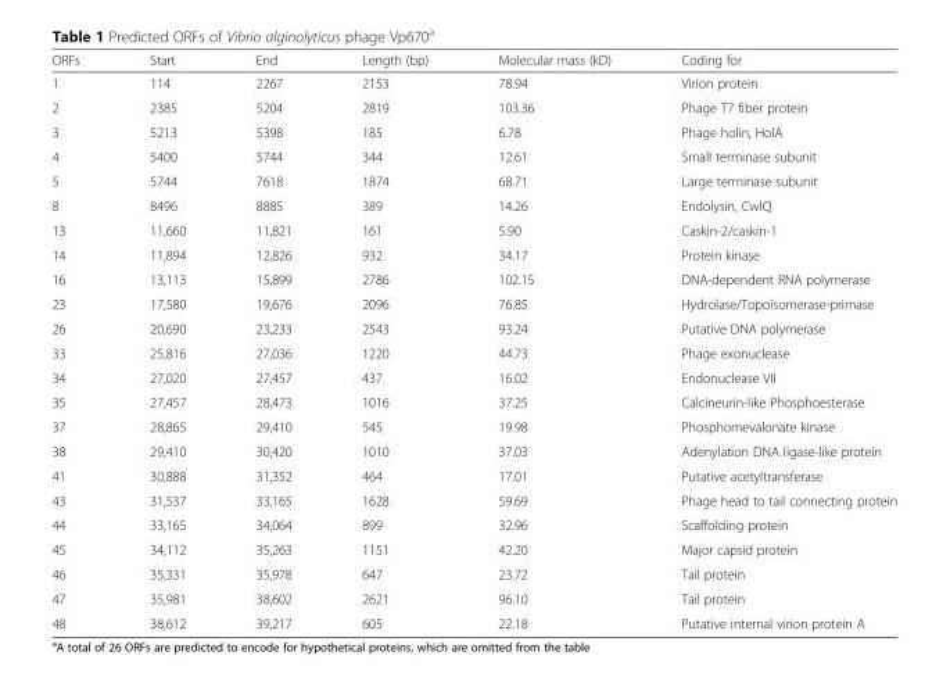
<table><thead><tr><td>ORFs</td><td>Start</td><td>End</td><td>Length (bp)</td><td>Molecular mass (kD)</td><td>Coding for</td></tr></thead><tbody><tr><td>1</td><td>114</td><td>2267</td><td>2153</td><td>78.94</td><td>Virion protein</td></tr><tr><td>2</td><td>2385</td><td>5204</td><td>2819</td><td>103.36</td><td>Phage T7 fiber protein</td></tr><tr><td>3</td><td>5213</td><td>5398</td><td>185</td><td>6.78</td><td>Phage holin, HolA</td></tr><tr><td>4</td><td>5400</td><td>5744</td><td>344</td><td>12.61</td><td>Small terminase subunit</td></tr><tr><td>5</td><td>5744</td><td>7618</td><td>1874</td><td>68.71</td><td>Large terminase subunit</td></tr><tr><td>8</td><td>8496</td><td>8885</td><td>389</td><td>14.26</td><td>Endolysin, CwlQ</td></tr><tr><td>13</td><td>11,660</td><td>11,821</td><td>161</td><td>5.90</td><td>Caskin-2/caskin-1</td></tr><tr><td>14</td><td>11,894</td><td>12,826</td><td>932</td><td>34.17</td><td>Protein kinase</td></tr><tr><td>16</td><td>13,113</td><td>15,899</td><td>2786</td><td>102.15</td><td>DNA-dependent RNA polymerase</td></tr><tr><td>23</td><td>17,580</td><td>19,676</td><td>2096</td><td>76.85</td><td>Hydrolase/Topoisomerase-primase</td></tr><tr><td>26</td><td>20,690</td><td>23,233</td><td>2543</td><td>93.24</td><td>Putative DNA polymerase</td></tr><tr><td>33</td><td>25,816</td><td>27,036</td><td>1220</td><td>44.73</td><td>Phage exonuclease</td></tr><tr><td>34</td><td>27,020</td><td>27,457</td><td>437</td><td>16.02</td><td>Endonuclease VII</td></tr><tr><td>35</td><td>27,457</td><td>28,473</td><td>1016</td><td>37.25</td><td>Calcineurin-like Phosphoesterase</td></tr><tr><td>37</td><td>28,865</td><td>29,410</td><td>545</td><td>19.98</td><td>Phosphomevalonate kinase</td></tr><tr><td>38</td><td>29,410</td><td>30,420</td><td>1010</td><td>37.03</td><td>Adenylation DNA ligase-like protein</td></tr><tr><td>41</td><td>30,888</td><td>31,352</td><td>464</td><td>17.01</td><td>Putative acetyltransferase</td></tr><tr><td>43</td><td>31,537</td><td>33,165</td><td>1628</td><td>59.69</td><td>Phage head to tail connecting protein</td></tr><tr><td>44</td><td>33,165</td><td>34,064</td><td>899</td><td>32.96</td><td>Scaffolding protein</td></tr><tr><td>45</td><td>34,112</td><td>35,263</td><td>1151</td><td>42.20</td><td>Major capsid protein</td></tr><tr><td>46</td><td>35,331</td><td>35,978</td><td>647</td><td>23.72</td><td>Tail protein</td></tr><tr><td>47</td><td>35,981</td><td>38,602</td><td>2621</td><td>96.10</td><td>Tail protein</td></tr><tr><td>48</td><td>38,612</td><td>39,217</td><td>605</td><td>22.18</td><td>Putative internal virion protein A</td></tr></tbody></table>